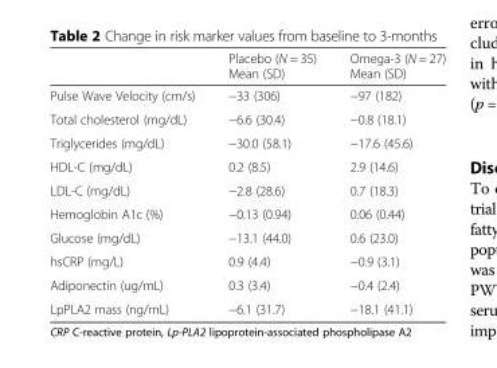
<table><thead><tr><td></td><td>Placebo (N = 35) Mean (SD)</td><td>Omega-3 (N = 27) Mean (SD)</td></tr></thead><tbody><tr><td>Pulse Wave Velocity (cm/s)</td><td>−33 (306)</td><td>−97 (182)</td></tr><tr><td>Total cholesterol (mg/dL)</td><td>−6.6 (30.4)</td><td>−0.8 (18.1)</td></tr><tr><td>Triglycerides (mg/dL)</td><td>−30.0 (58.1)</td><td>−17.6 (45.6)</td></tr><tr><td>HDL-C (mg/dL)</td><td>0.2 (8.5)</td><td>2.9 (14.6)</td></tr><tr><td>LDL-C (mg/dL)</td><td>−2.8 (28.6)</td><td>0.7 (18.3)</td></tr><tr><td>Hemoglobin A1c (%)</td><td>−0.13 (0.94)</td><td>0.06 (0.44)</td></tr><tr><td>Glucose (mg/dL)</td><td>−13.1 (44.0)</td><td>0.6 (23.0)</td></tr><tr><td>hsCRP (mg/L)</td><td>0.9 (4.4)</td><td>−0.9 (3.1)</td></tr><tr><td>Adiponectin (ug/mL)</td><td>0.3 (3.4)</td><td>−0.4 (2.4)</td></tr><tr><td>LpPLA2 mass (ng/mL)</td><td>−6.1 (31.7)</td><td>−18.1 (41.1)</td></tr></tbody></table>